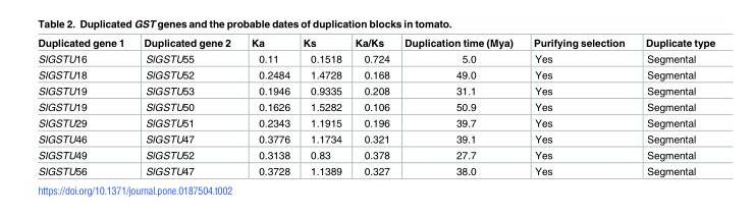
<table><thead><tr><td>Duplicated gene 1</td><td>Duplicated gene 2</td><td>Ka</td><td>Ks</td><td>Ka/Ks</td><td>Duplication time (Mya)</td><td>Purifying selection</td><td>Duplicate type</td></tr></thead><tbody><tr><td>SlGSTU16</td><td>SlGSTU55</td><td>0.11</td><td>0.1518</td><td>0.724</td><td>5.0</td><td>Yes</td><td>Segmental</td></tr><tr><td>SlGSTU18</td><td>SlGSTU52</td><td>0.2484</td><td>1.4728</td><td>0.168</td><td>49.0</td><td>Yes</td><td>Segmental</td></tr><tr><td>SlGSTU19</td><td>SlGSTU53</td><td>0.1946</td><td>0.9335</td><td>0.208</td><td>31.1</td><td>Yes</td><td>Segmental</td></tr><tr><td>SlGSTU19</td><td>SlGSTU50</td><td>0.1626</td><td>1.5282</td><td>0.106</td><td>50.9</td><td>Yes</td><td>Segmental</td></tr><tr><td>SlGSTU29</td><td>SlGSTU51</td><td>0.2343</td><td>1.1915</td><td>0.196</td><td>39.7</td><td>Yes</td><td>Segmental</td></tr><tr><td>SlGSTU46</td><td>SlGSTU47</td><td>0.3776</td><td>1.1734</td><td>0.321</td><td>39.1</td><td>Yes</td><td>Segmental</td></tr><tr><td>SlGSTU49</td><td>SlGSTU52</td><td>0.3138</td><td>0.83</td><td>0.378</td><td>27.7</td><td>Yes</td><td>Segmental</td></tr><tr><td>SlGSTU56</td><td>SlGSTU47</td><td>0.3728</td><td>1.1389</td><td>0.327</td><td>38.0</td><td>Yes</td><td>Segmental</td></tr></tbody></table>